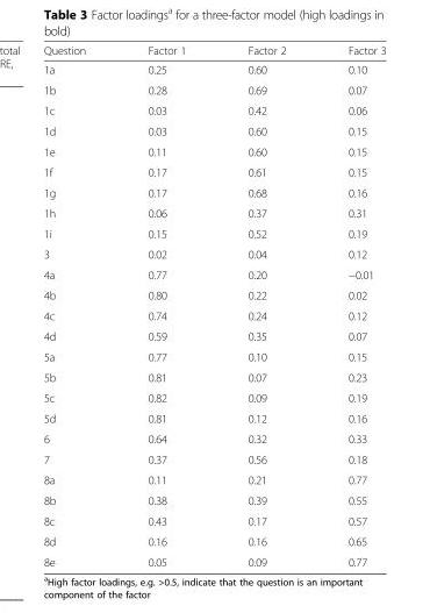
<table><thead><tr><td>Question</td><td>Factor 1</td><td>Factor 2</td><td>Factor 3</td></tr></thead><tbody><tr><td>1a</td><td>0.25</td><td>0.60</td><td>0.10</td></tr><tr><td>1b</td><td>0.28</td><td>0.69</td><td>0.07</td></tr><tr><td>1c</td><td>0.03</td><td>0.42</td><td>0.06</td></tr><tr><td>1d</td><td>0.03</td><td>0.60</td><td>0.15</td></tr><tr><td>1e</td><td>0.11</td><td>0.60</td><td>0.15</td></tr><tr><td>1f</td><td>0.17</td><td>0.61</td><td>0.15</td></tr><tr><td>1g</td><td>0.17</td><td>0.68</td><td>0.16</td></tr><tr><td>1h</td><td>0.06</td><td>0.37</td><td>0.31</td></tr><tr><td>1i</td><td>0.15</td><td>0.52</td><td>0.19</td></tr><tr><td>3</td><td>0.02</td><td>0.04</td><td>0.12</td></tr><tr><td>4a</td><td>0.77</td><td>0.20</td><td>−0.01</td></tr><tr><td>4b</td><td>0.80</td><td>0.22</td><td>0.02</td></tr><tr><td>4c</td><td>0.74</td><td>0.24</td><td>0.12</td></tr><tr><td>4d</td><td>0.59</td><td>0.35</td><td>0.07</td></tr><tr><td>5a</td><td>0.77</td><td>0.10</td><td>0.15</td></tr><tr><td>5b</td><td>0.81</td><td>0.07</td><td>0.23</td></tr><tr><td>5c</td><td>0.82</td><td>0.09</td><td>0.19</td></tr><tr><td>5d</td><td>0.81</td><td>0.12</td><td>0.16</td></tr><tr><td>6</td><td>0.64</td><td>0.32</td><td>0.33</td></tr><tr><td>7</td><td>0.37</td><td>0.56</td><td>0.18</td></tr><tr><td>8a</td><td>0.11</td><td>0.21</td><td>0.77</td></tr><tr><td>8b</td><td>0.38</td><td>0.39</td><td>0.55</td></tr><tr><td>8c</td><td>0.43</td><td>0.17</td><td>0.57</td></tr><tr><td>8d</td><td>0.16</td><td>0.16</td><td>0.65</td></tr><tr><td>8e</td><td>0.05</td><td>0.09</td><td>0.77</td></tr></tbody></table>